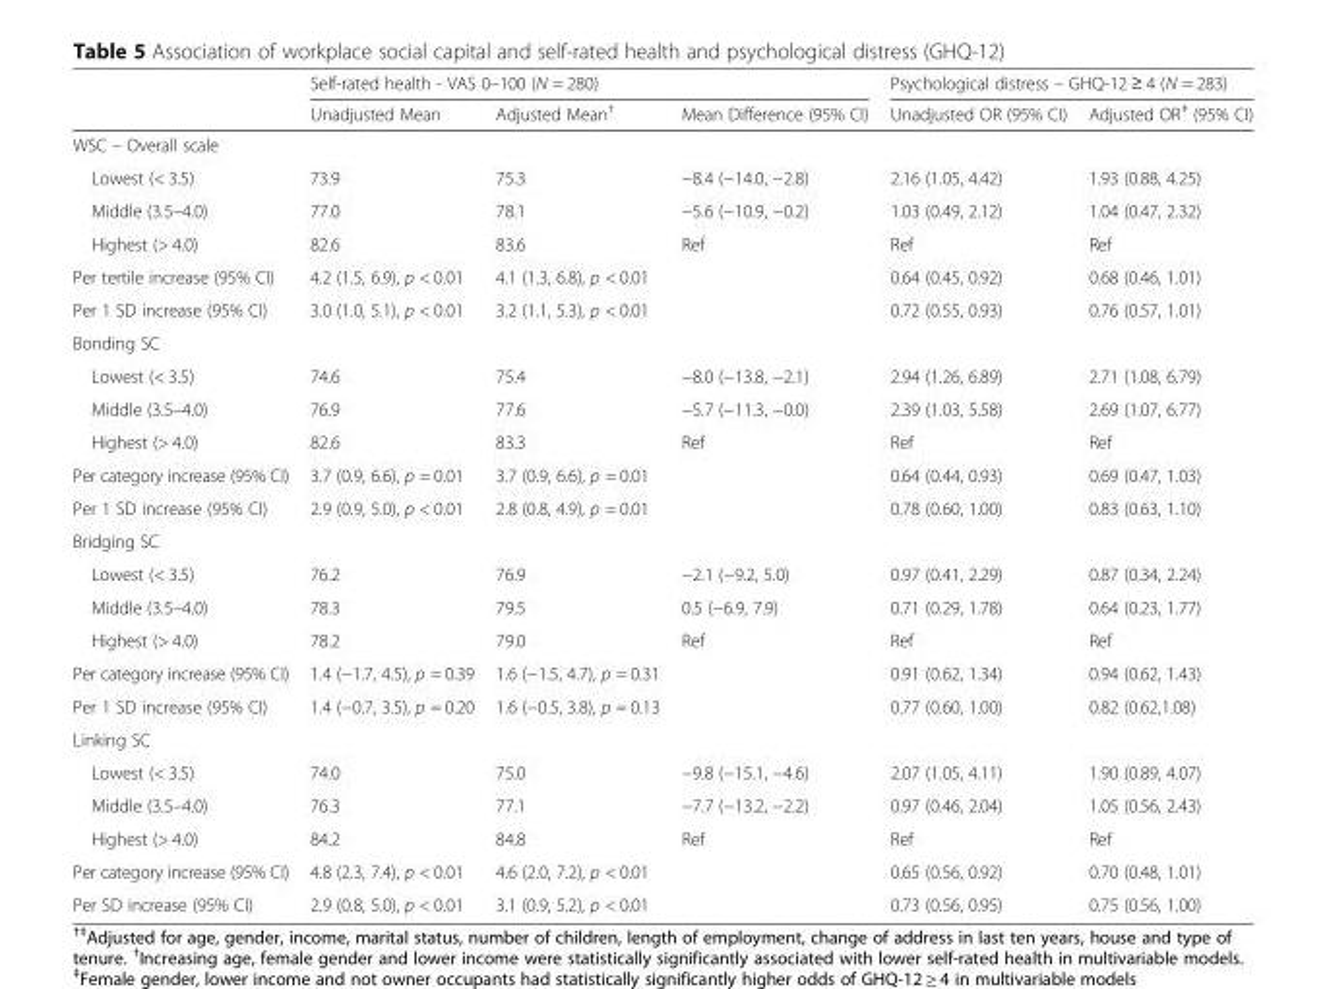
<table><thead><tr><td rowspan="2"></td><td colspan="3">Self-rated health - VAS 0–100 (N = 280)</td><td colspan="2">Psychological distress – GHQ-12 ≥ 4 (N = 283)</td></tr><tr><td>Unadjusted Mean</td><td>Adjusted Mean<sup>†</sup></td><td>Mean Difference (95% CI)</td><td>Unadjusted OR (95% CI)</td><td>Adjusted OR<sup>‡</sup> (95% CI)</td></tr></thead><tbody><tr><td colspan="6">WSC – Overall scale</td></tr><tr><td>Lowest (&lt; 3.5)</td><td>73.9</td><td>75.3</td><td>−8.4 (−14.0, −2.8)</td><td>2.16 (1.05, 4.42)</td><td>1.93 (0.88, 4.25)</td></tr><tr><td>Middle (3.5–4.0)</td><td>77.0</td><td>78.1</td><td>−5.6 (−10.9, −0.2)</td><td>1.03 (0.49, 2.12)</td><td>1.04 (0.47, 2.32)</td></tr><tr><td>Highest (&gt; 4.0)</td><td>82.6</td><td>83.6</td><td>Ref</td><td>Ref</td><td>Ref</td></tr><tr><td>Per tertile increase (95% CI)</td><td>4.2 (1.5, 6.9), p &lt; 0.01</td><td>4.1 (1.3, 6.8), p &lt; 0.01</td><td></td><td>0.64 (0.45, 0.92)</td><td>0.68 (0.46, 1.01)</td></tr><tr><td>Per 1 SD increase (95% CI)</td><td>3.0 (1.0, 5.1), p &lt; 0.01</td><td>3.2 (1.1, 5.3), p &lt; 0.01</td><td></td><td>0.72 (0.55, 0.93)</td><td>0.76 (0.57, 1.01)</td></tr><tr><td colspan="6">Bonding SC</td></tr><tr><td>Lowest (&lt; 3.5)</td><td>74.6</td><td>75.4</td><td>−8.0 (−13.8, −2.1)</td><td>2.94 (1.26, 6.89)</td><td>2.71 (1.08, 6.79)</td></tr><tr><td>Middle (3.5–4.0)</td><td>76.9</td><td>77.6</td><td>−5.7 (−11.3, −0.0)</td><td>2.39 (1.03, 5.58)</td><td>2.69 (1.07, 6.77)</td></tr><tr><td>Highest (&gt; 4.0)</td><td>82.6</td><td>83.3</td><td>Ref</td><td>Ref</td><td>Ref</td></tr><tr><td>Per category increase (95% CI)</td><td>3.7 (0.9, 6.6), p = 0.01</td><td>3.7 (0.9, 6.6), p = 0.01</td><td></td><td>0.64 (0.44, 0.93)</td><td>0.69 (0.47, 1.03)</td></tr><tr><td>Per 1 SD increase (95% CI)</td><td>2.9 (0.9, 5.0), p &lt; 0.01</td><td>2.8 (0.8, 4.9), p = 0.01</td><td></td><td>0.78 (0.60, 1.00)</td><td>0.83 (0.63, 1.10)</td></tr><tr><td colspan="6">Bridging SC</td></tr><tr><td>Lowest (&lt; 3.5)</td><td>76.2</td><td>76.9</td><td>−2.1 (−9.2, 5.0)</td><td>0.97 (0.41, 2.29)</td><td>0.87 (0.34, 2.24)</td></tr><tr><td>Middle (3.5–4.0)</td><td>78.3</td><td>79.5</td><td>0.5 (−6.9, 7.9)</td><td>0.71 (0.29, 1.78)</td><td>0.64 (0.23, 1.77)</td></tr><tr><td>Highest (&gt; 4.0)</td><td>78.2</td><td>79.0</td><td>Ref</td><td>Ref</td><td>Ref</td></tr><tr><td>Per category increase (95% CI)</td><td>1.4 (−1.7, 4.5), p = 0.39</td><td>1.6 (−1.5, 4.7), p = 0.31</td><td></td><td>0.91 (0.62, 1.34)</td><td>0.94 (0.62, 1.43)</td></tr><tr><td>Per 1 SD increase (95% CI)</td><td>1.4 (−0.7, 3.5), p = 0.20</td><td>1.6 (−0.5, 3.8), p = 0.13</td><td></td><td>0.77 (0.60, 1.00)</td><td>0.82 (0.62,1.08)</td></tr><tr><td colspan="6">Linking SC</td></tr><tr><td>Lowest (&lt; 3.5)</td><td>74.0</td><td>75.0</td><td>−9.8 (−15.1, −4.6)</td><td>2.07 (1.05, 4.11)</td><td>1.90 (0.89, 4.07)</td></tr><tr><td>Middle (3.5–4.0)</td><td>76.3</td><td>77.1</td><td>−7.7 (−13.2, −2.2)</td><td>0.97 (0.46, 2.04)</td><td>1.05 (0.56, 2.43)</td></tr><tr><td>Highest (&gt; 4.0)</td><td>84.2</td><td>84.8</td><td>Ref</td><td>Ref</td><td>Ref</td></tr><tr><td>Per category increase (95% CI)</td><td>4.8 (2.3, 7.4), p &lt; 0.01</td><td>4.6 (2.0, 7.2), p &lt; 0.01</td><td></td><td>0.65 (0.56, 0.92)</td><td>0.70 (0.48, 1.01)</td></tr><tr><td>Per SD increase (95% CI)</td><td>2.9 (0.8, 5.0), p &lt; 0.01</td><td>3.1 (0.9, 5.2), p &lt; 0.01</td><td></td><td>0.73 (0.56, 0.95)</td><td>0.75 (0.56, 1.00)</td></tr></tbody></table>